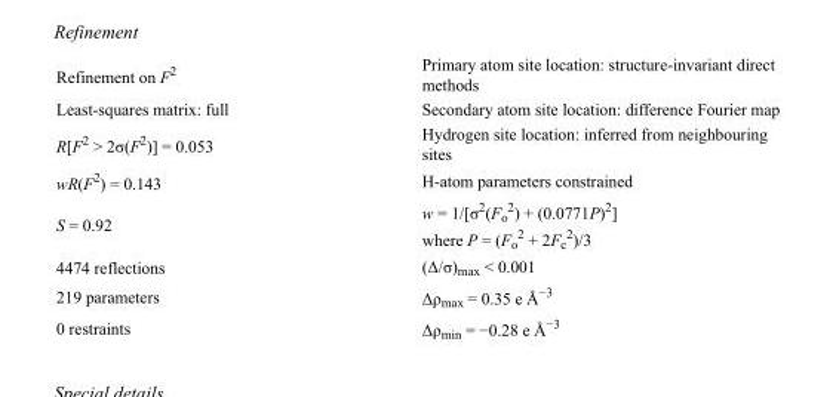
<table><tbody><tr><td>Refinement on F<sup>2</sup></td><td>Primary atom site location: structure-invariant direct methods</td></tr><tr><td>Least-squares matrix: full</td><td>Secondary atom site location: difference Fourier map</td></tr><tr><td>R[F<sup>2</sup> &gt; 2σ(F<sup>2</sup>)] = 0.053</td><td>Hydrogen site location: inferred from neighbouring sites</td></tr><tr><td>wR(F<sup>2</sup>) = 0.143</td><td>H-atom parameters constrained</td></tr><tr><td>S = 0.92</td><td>w = 1/[σ<sup>2</sup>(F<sub>o</sub> <sup>2</sup>) + (0.0771P)<sup>2</sup>] where P = (F<sub>o</sub> <sup>2</sup> + 2F<sub>c</sub> <sup>2</sup>)/3</td></tr><tr><td>4474 reflections</td><td>(Δ/σ)<sub>max</sub> &lt; 0.001</td></tr><tr><td>219 parameters</td><td>Δρ<sub>max</sub> = 0.35 e Å<sup>−3</sup></td></tr><tr><td>0 restraints</td><td>Δρ<sub>min</sub> = −0.28 e Å<sup>−3</sup></td></tr></tbody></table>